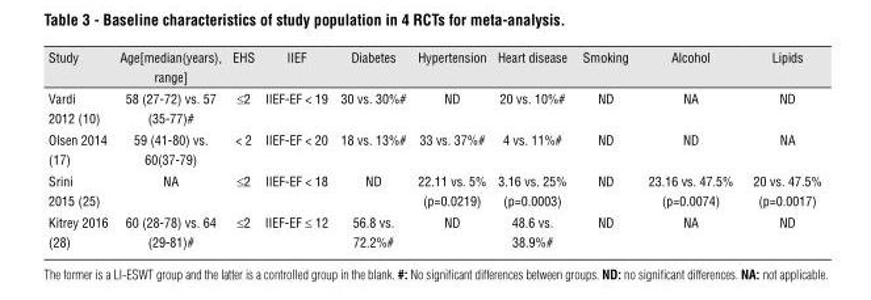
<table><thead><tr><td>Study</td><td>Age[median(years), range]</td><td>EHS</td><td>IIEF</td><td>Diabetes</td><td>Hypertension</td><td>Heart disease</td><td>Smoking</td><td>Alcohol</td><td>Lipids</td></tr></thead><tbody><tr><td>Vardi 2012 (10)</td><td>58 (27-72) vs. 57 (35-77)#</td><td>≤2</td><td>IIEF-EF &lt; 19</td><td>30 vs. 30%#</td><td>ND</td><td>20 vs. 10%#</td><td>ND</td><td>NA</td><td>ND</td></tr><tr><td>Olsen 2014 (17)</td><td>59 (41-80) vs. 60(37-79)</td><td>&lt; 2</td><td>IIEF-EF &lt; 20</td><td>18 vs. 13%#</td><td>33 vs. 37%#</td><td>4 vs. 11%#</td><td>ND</td><td>ND</td><td>NA</td></tr><tr><td>Srini 2015 (25)</td><td>NA</td><td>≤2</td><td>IIEF-EF &lt; 18</td><td>ND</td><td>22.11 vs. 5% (p=0.0219)</td><td>3.16 vs. 25% (p=0.0003)</td><td>ND</td><td>23.16 vs. 47.5% (p=0.0074)</td><td>20 vs. 47.5% (p=0.0017)</td></tr><tr><td>Kitrey 2016 (28)</td><td>60 (28-78) vs. 64 (29-81)#</td><td>≤2</td><td>IIEF-EF ≤ 12</td><td>56.8 vs. 72.2%#</td><td>ND</td><td>48.6 vs. 38.9%#</td><td>ND</td><td>NA</td><td>ND</td></tr></tbody></table>